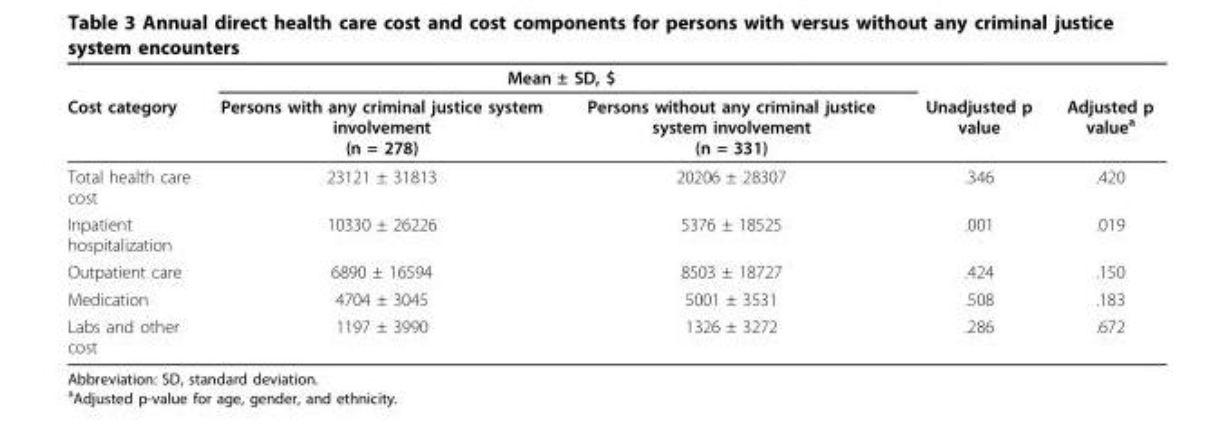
<table><thead><tr><td rowspan="2">Cost category</td><td colspan="2">Mean ± SD, $</td><td rowspan="2">Unadjusted p value</td><td rowspan="2">Adjusted p value<sup>a</sup></td></tr><tr><td>Persons with any criminal justice system involvement (n = 278)</td><td>Persons without any criminal justice system involvement (n = 331)</td></tr></thead><tbody><tr><td>Total health care cost</td><td>23121 ± 31813</td><td>20206 ± 28307</td><td>.346</td><td>.420</td></tr><tr><td>Inpatient hospitalization</td><td>10330 ± 26226</td><td>5376 ± 18525</td><td>.001</td><td>.019</td></tr><tr><td>Outpatient care</td><td>6890 ± 16594</td><td>8503 ± 18727</td><td>.424</td><td>.150</td></tr><tr><td>Medication</td><td>4704 ± 3045</td><td>5001 ± 3531</td><td>.508</td><td>.183</td></tr><tr><td>Labs and other cost</td><td>1197 ± 3990</td><td>1326 ± 3272</td><td>.286</td><td>.672</td></tr></tbody></table>